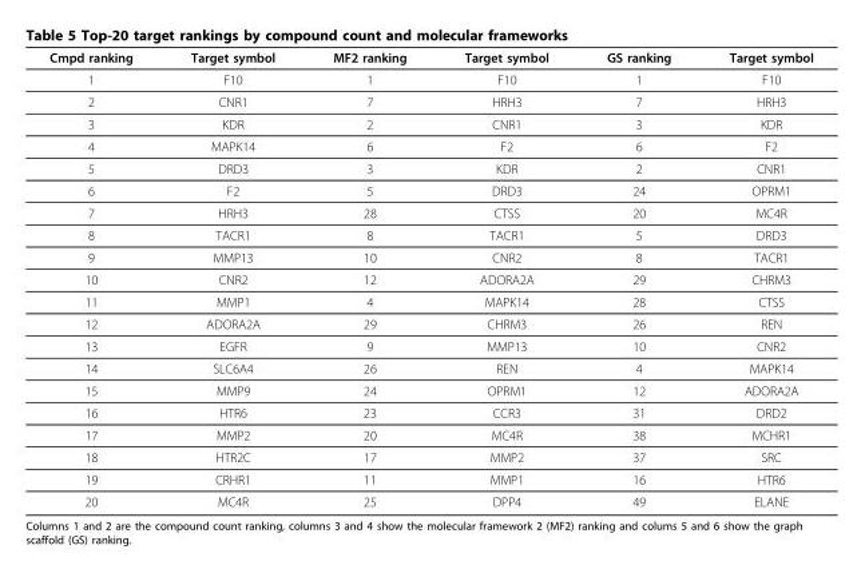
<table><thead><tr><td>Cmpd ranking</td><td>Target symbol</td><td>MF2 ranking</td><td>Target symbol</td><td>GS ranking</td><td>Target symbol</td></tr></thead><tbody><tr><td>1</td><td>F10</td><td>1</td><td>F10</td><td>1</td><td>F10</td></tr><tr><td>2</td><td>CNR1</td><td>7</td><td>HRH3</td><td>7</td><td>HRH3</td></tr><tr><td>3</td><td>KDR</td><td>2</td><td>CNR1</td><td>3</td><td>KDR</td></tr><tr><td>4</td><td>MAPK14</td><td>6</td><td>F2</td><td>6</td><td>F2</td></tr><tr><td>5</td><td>DRD3</td><td>3</td><td>KDR</td><td>2</td><td>CNR1</td></tr><tr><td>6</td><td>F2</td><td>5</td><td>DRD3</td><td>24</td><td>OPRM1</td></tr><tr><td>7</td><td>HRH3</td><td>28</td><td>CTSS</td><td>20</td><td>MC4R</td></tr><tr><td>8</td><td>TACR1</td><td>8</td><td>TACR1</td><td>5</td><td>DRD3</td></tr><tr><td>9</td><td>MMP13</td><td>10</td><td>CNR2</td><td>8</td><td>TACR1</td></tr><tr><td>10</td><td>CNR2</td><td>12</td><td>ADORA2A</td><td>29</td><td>CHRM3</td></tr><tr><td>11</td><td>MMP1</td><td>4</td><td>MAPK14</td><td>28</td><td>CTSS</td></tr><tr><td>12</td><td>ADORA2A</td><td>29</td><td>CHRM3</td><td>26</td><td>REN</td></tr><tr><td>13</td><td>EGFR</td><td>9</td><td>MMP13</td><td>10</td><td>CNR2</td></tr><tr><td>14</td><td>SLC6A4</td><td>26</td><td>REN</td><td>4</td><td>MAPK14</td></tr><tr><td>15</td><td>MMP9</td><td>24</td><td>OPRM1</td><td>12</td><td>ADORA2A</td></tr><tr><td>16</td><td>HTR6</td><td>23</td><td>CCR3</td><td>31</td><td>DRD2</td></tr><tr><td>17</td><td>MMP2</td><td>20</td><td>MC4R</td><td>38</td><td>MCHR1</td></tr><tr><td>18</td><td>HTR2C</td><td>17</td><td>MMP2</td><td>37</td><td>SRC</td></tr><tr><td>19</td><td>CRHR1</td><td>11</td><td>MMP1</td><td>16</td><td>HTR6</td></tr><tr><td>20</td><td>MC4R</td><td>25</td><td>DPP4</td><td>49</td><td>ELANE</td></tr></tbody></table>